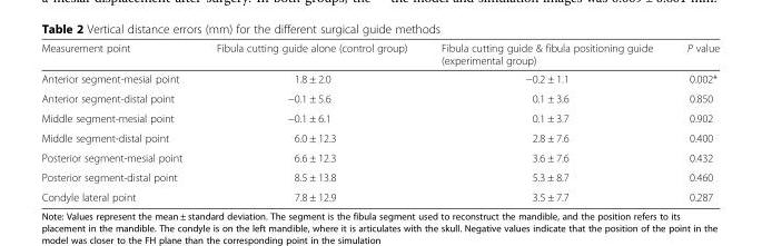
<table><thead><tr><td>Measurement point</td><td>Fibula cutting guide alone (control group)</td><td>Fibula cutting guide &amp; fibula positioning guide (experimental group)</td><td>P value</td></tr></thead><tbody><tr><td>Anterior segment-mesial point</td><td>1.8 ± 2.0</td><td>−0.2 ± 1.1</td><td>0.002*</td></tr><tr><td>Anterior segment-distal point</td><td>−0.1 ± 5.6</td><td>0.1 ± 3.6</td><td>0.850</td></tr><tr><td>Middle segment-mesial point</td><td>−0.1 ± 6.1</td><td>0.1 ± 3.7</td><td>0.902</td></tr><tr><td>Middle segment-distal point</td><td>6.0 ± 12.3</td><td>2.8 ± 7.6</td><td>0.400</td></tr><tr><td>Posterior segment-mesial point</td><td>6.6 ± 12.3</td><td>3.6 ± 7.6</td><td>0.432</td></tr><tr><td>Posterior segment-distal point</td><td>8.5 ± 13.8</td><td>5.3 ± 8.7</td><td>0.460</td></tr><tr><td>Condyle lateral point</td><td>7.8 ± 12.9</td><td>3.5 ± 7.7</td><td>0.287</td></tr></tbody></table>